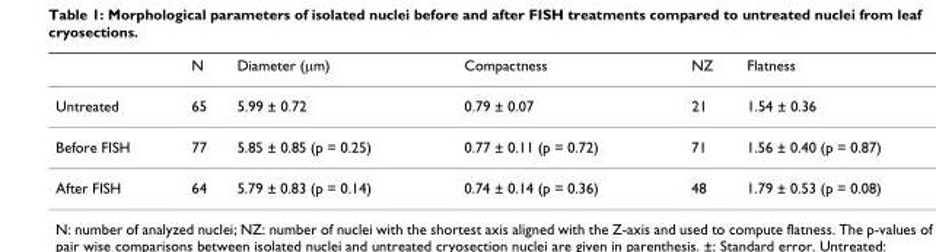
<table><thead><tr><td></td><td>N</td><td>Diameter (μm)</td><td>Compactness</td><td>NZ</td><td>Flatness</td></tr></thead><tbody><tr><td>Untreated</td><td>65</td><td>5.99 ± 0.72</td><td>0.79 ± 0.07</td><td>21</td><td>1.54 ± 0.36</td></tr><tr><td>Before FISH</td><td>77</td><td>5.85 ± 0.85 (p = 0.25)</td><td>0.77 ± 0.11 (p = 0.72)</td><td>71</td><td>1.56 ± 0.40 (p = 0.87)</td></tr><tr><td>After FISH</td><td>64</td><td>5.79 ± 0.83 (p = 0.14)</td><td>0.74 ± 0.14 (p = 0.36)</td><td>48</td><td>1.79 ± 0.53 (p = 0.08)</td></tr></tbody></table>